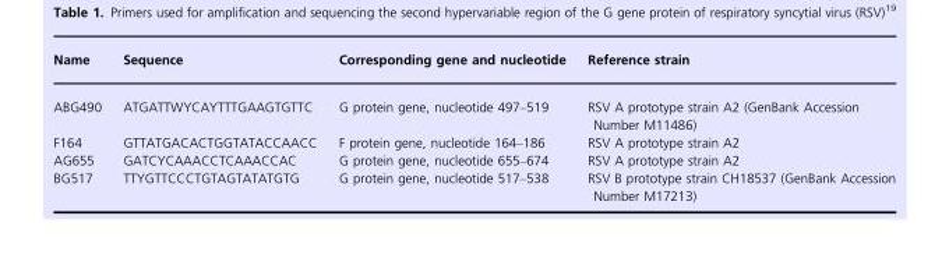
<table><thead><tr><td>Name</td><td>Sequence</td><td>Corresponding gene and nucleotide</td><td>Reference strain</td></tr></thead><tbody><tr><td>ABG490</td><td>ATGATTWYCAYTTTGAAGTGTTC</td><td>G protein gene, nucleotide 497–519</td><td>RSV A prototype strain A2 (GenBank Accession Number M11486)</td></tr><tr><td>F164</td><td>GTTATGACACTGGTATACCAACC</td><td>F protein gene, nucleotide 164–186</td><td>RSV A prototype strain A2</td></tr><tr><td>AG655</td><td>GATCYCAAACCTCAAACCAC</td><td>G protein gene, nucleotide 655–674</td><td>RSV A prototype strain A2</td></tr><tr><td>BG517</td><td>TTYGTTCCCTGTAGTATATGTG</td><td>G protein gene, nucleotide 517–538</td><td>RSV B prototype strain CH18537 (GenBank Accession Number M17213)</td></tr></tbody></table>